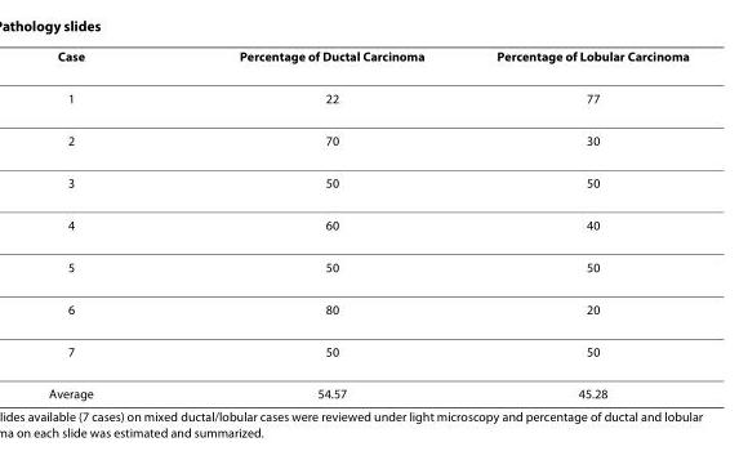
<table><thead><tr><td>Case</td><td>Percentage of Ductal Carcinoma</td><td>Percentage of Lobular Carcinoma</td></tr></thead><tbody><tr><td>1</td><td>22</td><td>77</td></tr><tr><td>2</td><td>70</td><td>30</td></tr><tr><td>3</td><td>50</td><td>50</td></tr><tr><td>4</td><td>60</td><td>40</td></tr><tr><td>5</td><td>50</td><td>50</td></tr><tr><td>6</td><td>80</td><td>20</td></tr><tr><td>7</td><td>50</td><td>50</td></tr><tr><td>Average</td><td>54.57</td><td>45.28</td></tr></tbody></table>